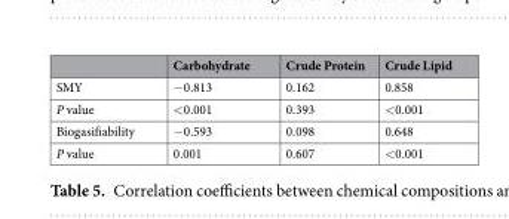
<table><thead><tr><td></td><td>Carbohydrate</td><td>Crude Protein</td><td>Crude Lipid</td></tr></thead><tbody><tr><td>SMY</td><td>−0.813</td><td>0.162</td><td>0.858</td></tr><tr><td>P value</td><td>&lt;0.001</td><td>0.393</td><td>&lt;0.001</td></tr><tr><td>Biogasifiability</td><td>−0.593</td><td>0.098</td><td>0.648</td></tr><tr><td>P value</td><td>0.001</td><td>0.607</td><td>&lt;0.001</td></tr></tbody></table>